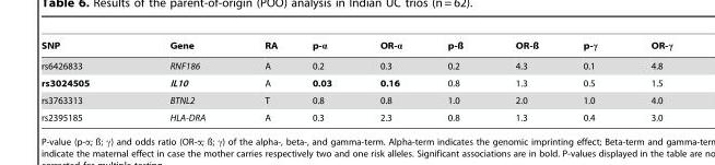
<table><thead><tr><td>SNP</td><td>Gene</td><td>RA</td><td>p-α</td><td>OR-α</td><td>p-ß</td><td>OR-ß</td><td>p-γ</td><td>OR-γ</td></tr></thead><tbody><tr><td>rs6426833</td><td>RNF186</td><td>A</td><td>0.2</td><td>0.3</td><td>0.2</td><td>4.3</td><td>0.1</td><td>4.8</td></tr><tr><td>rs3024505</td><td>IL10</td><td>A</td><td>0.03</td><td>0.16</td><td>0.8</td><td>1.3</td><td>0.5</td><td>1.5</td></tr><tr><td>rs3763313</td><td>BTNL2</td><td>T</td><td>0.8</td><td>0.8</td><td>1.0</td><td>2.0</td><td>1.0</td><td>4.0</td></tr><tr><td>rs2395185</td><td>HLA-DRA</td><td>A</td><td>0.3</td><td>2.3</td><td>0.8</td><td>1.3</td><td>0.4</td><td>3.0</td></tr></tbody></table>